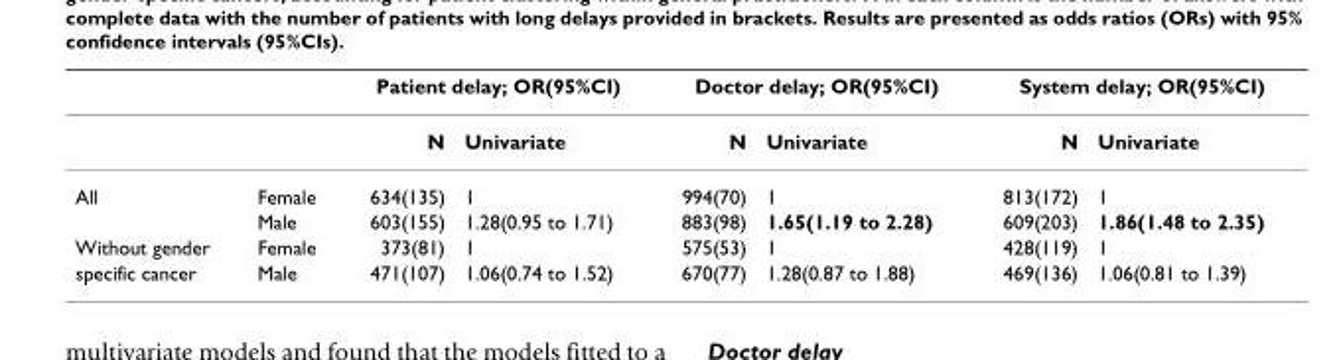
<table><thead><tr><td rowspan="2"></td><td rowspan="2"></td><td colspan="2">Patient delay; OR(95%CI)</td><td colspan="2">Doctor delay; OR(95%CI)</td><td colspan="2">System delay; OR(95%CI)</td></tr><tr><td>N</td><td>Univariate</td><td>N</td><td>Univariate</td><td>N</td><td>Univariate</td></tr></thead><tbody><tr><td rowspan="2">All</td><td>Female</td><td>634(135)</td><td>1</td><td>994(70)</td><td>1</td><td>813(172)</td><td>1</td></tr><tr><td>Male</td><td>603(155)</td><td>1.28(0.95 to 1.71)</td><td>883(98)</td><td>1.65(1.19 to 2.28)</td><td>609(203)</td><td>1.86(1.48 to 2.35)</td></tr><tr><td>Without gender</td><td>Female</td><td>373(81)</td><td>1</td><td>575(53)</td><td>1</td><td>428(119)</td><td>1</td></tr><tr><td>specific cancer</td><td>Male</td><td>471(107)</td><td>1.06(0.74 to 1.52)</td><td>670(77)</td><td>1.28(0.87 to 1.88)</td><td>469(136)</td><td>1.06(0.81 to 1.39)</td></tr></tbody></table>